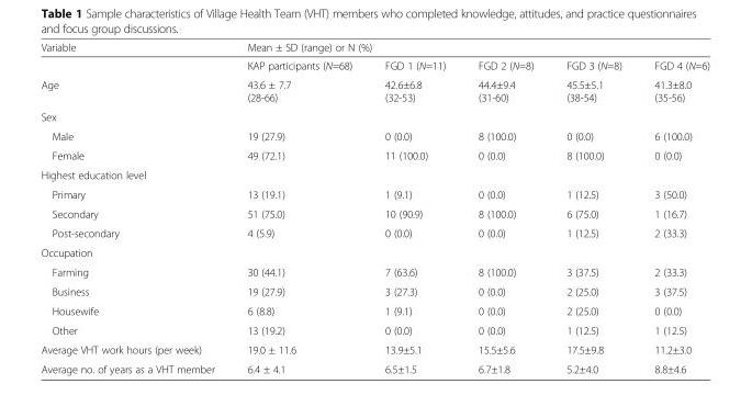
<table><thead><tr><td rowspan="2">Variable</td><td colspan="5">Mean ± SD (range) or N (%)</td></tr><tr><td>KAP participants (N=68)</td><td>FGD 1 (N=11)</td><td>FGD 2 (N=8)</td><td>FGD 3 (N=8)</td><td>FGD 4 (N=6)</td></tr></thead><tbody><tr><td>Age</td><td>43.6 ± 7.7 (28-66)</td><td>42.6±6.8 (32-53)</td><td>44.4±9.4 (31-60)</td><td>45.5±5.1 (38-54)</td><td>41.3±8.0 (35-56)</td></tr><tr><td colspan="6">Sex</td></tr><tr><td>Male</td><td>19 (27.9)</td><td>0 (0.0)</td><td>8 (100.0)</td><td>0 (0.0)</td><td>6 (100.0)</td></tr><tr><td>Female</td><td>49 (72.1)</td><td>11 (100.0)</td><td>0 (0.0)</td><td>8 (100.0)</td><td>0 (0.0)</td></tr><tr><td colspan="6">Highest education level</td></tr><tr><td>Primary</td><td>13 (19.1)</td><td>1 (9.1)</td><td>0 (0.0)</td><td>1 (12.5)</td><td>3 (50.0)</td></tr><tr><td>Secondary</td><td>51 (75.0)</td><td>10 (90.9)</td><td>8 (100.0)</td><td>6 (75.0)</td><td>1 (16.7)</td></tr><tr><td>Post-secondary</td><td>4 (5.9)</td><td>0 (0.0)</td><td>0 (0.0)</td><td>1 (12.5)</td><td>2 (33.3)</td></tr><tr><td colspan="6">Occupation</td></tr><tr><td>Farming</td><td>30 (44.1)</td><td>7 (63.6)</td><td>8 (100.0)</td><td>3 (37.5)</td><td>2 (33.3)</td></tr><tr><td>Business</td><td>19 (27.9)</td><td>3 (27.3)</td><td>0 (0.0)</td><td>2 (25.0)</td><td>3 (37.5)</td></tr><tr><td>Housewife</td><td>6 (8.8)</td><td>1 (9.1)</td><td>0 (0.0)</td><td>2 (25.0)</td><td>0 (0.0)</td></tr><tr><td>Other</td><td>13 (19.2)</td><td>0 (0.0)</td><td>0 (0.0)</td><td>1 (12.5)</td><td>1 (12.5)</td></tr><tr><td>Average VHT work hours (per week)</td><td>19.0 ± 11.6</td><td>13.9±5.1</td><td>15.5±5.6</td><td>17.5±9.8</td><td>11.2±3.0</td></tr><tr><td>Average no. of years as a VHT member</td><td>6.4 ± 4.1</td><td>6.5±1.5</td><td>6.7±1.8</td><td>5.2±4.0</td><td>8.8±4.6</td></tr></tbody></table>